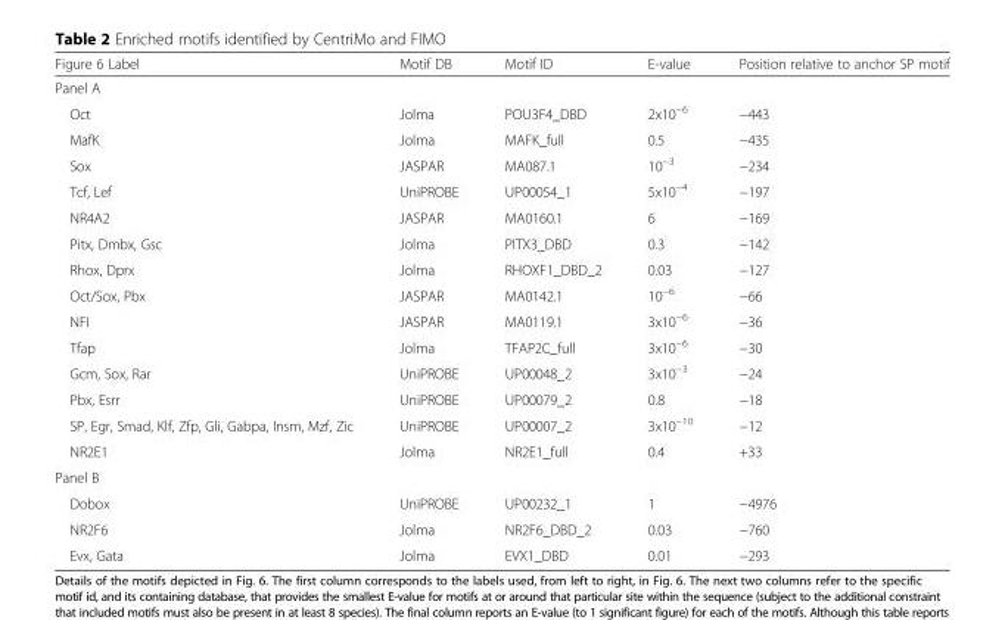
<table><thead><tr><td>Figure 6 Label</td><td>Motif DB</td><td>Motif ID</td><td>E-value</td><td>Position relative to anchor SP motif</td></tr></thead><tbody><tr><td colspan="5">Panel A</td></tr><tr><td>Oct</td><td>Jolma</td><td>POU3F4_DBD</td><td>2x10<sup>−6</sup></td><td>−443</td></tr><tr><td>MafK</td><td>Jolma</td><td>MAFK_full</td><td>0.5</td><td>−435</td></tr><tr><td>Sox</td><td>JASPAR</td><td>MA087.1</td><td>10<sup>−3</sup></td><td>−234</td></tr><tr><td>Tcf, Lef</td><td>UniPROBE</td><td>UP00054_1</td><td>5x10<sup>−4</sup></td><td>−197</td></tr><tr><td>NR4A2</td><td>JASPAR</td><td>MA0160.1</td><td>6</td><td>−169</td></tr><tr><td>Pitx, Dmbx, Gsc</td><td>Jolma</td><td>PITX3_DBD</td><td>0.3</td><td>−142</td></tr><tr><td>Rhox, Dprx</td><td>Jolma</td><td>RHOXF1_DBD_2</td><td>0.03</td><td>−127</td></tr><tr><td>Oct/Sox, Pbx</td><td>JASPAR</td><td>MA0142.1</td><td>10<sup>−6</sup></td><td>−66</td></tr><tr><td>NFI</td><td>JASPAR</td><td>MA0119.1</td><td>3x10<sup>−6</sup></td><td>−36</td></tr><tr><td>Tfap</td><td>Jolma</td><td>TFAP2C_full</td><td>3x10<sup>−6</sup></td><td>−30</td></tr><tr><td>Gcm, Sox, Rar</td><td>UniPROBE</td><td>UP00048_2</td><td>3x10<sup>−3</sup></td><td>−24</td></tr><tr><td>Pbx, Esrr</td><td>UniPROBE</td><td>UP00079_2</td><td>0.8</td><td>−18</td></tr><tr><td>SP, Egr, Smad, Klf, Zfp, Gli, Gabpa, Insm, Mzf, Zic</td><td>UniPROBE</td><td>UP00007_2</td><td>3x10<sup>−10</sup></td><td>−12</td></tr><tr><td>NR2E1</td><td>Jolma</td><td>NR2E1_full</td><td>0.4</td><td>+33</td></tr><tr><td colspan="5">Panel B</td></tr><tr><td>Dobox</td><td>UniPROBE</td><td>UP00232_1</td><td>1</td><td>−4976</td></tr><tr><td>NR2F6</td><td>Jolma</td><td>NR2F6_DBD_2</td><td>0.03</td><td>−760</td></tr><tr><td>Evx, Gata</td><td>Jolma</td><td>EVX1_DBD</td><td>0.01</td><td>−293</td></tr></tbody></table>